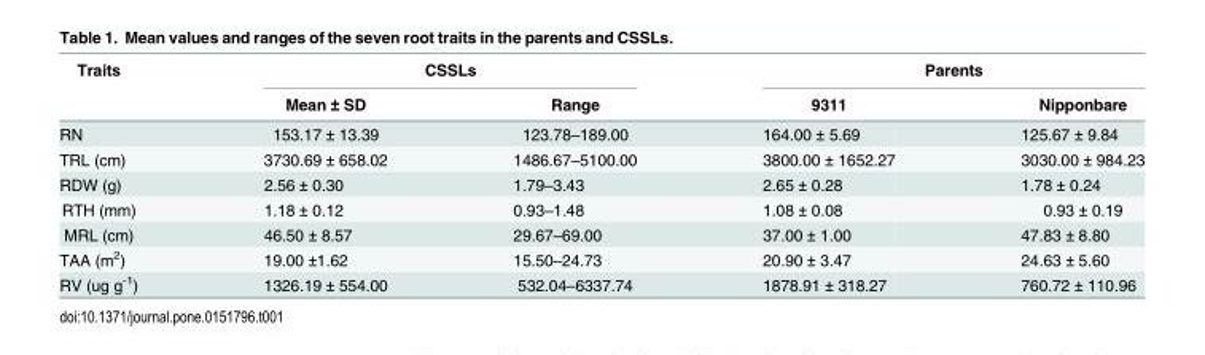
<table><thead><tr><td rowspan="2">Traits</td><td colspan="2">CSSLs</td><td colspan="2">Parents</td></tr><tr><td>Mean ± SD</td><td>Range</td><td>9311</td><td>Nipponbare</td></tr></thead><tbody><tr><td>RN</td><td>153.17 ± 13.39</td><td>123.78–189.00</td><td>164.00 ± 5.69</td><td>125.67 ± 9.84</td></tr><tr><td>TRL (cm)</td><td>3730.69 ± 658.02</td><td>1486.67–5100.00</td><td>3800.00 ± 1652.27</td><td>3030.00 ± 984.23</td></tr><tr><td>RDW (g)</td><td>2.56 ± 0.30</td><td>1.79–3.43</td><td>2.65 ± 0.28</td><td>1.78 ± 0.24</td></tr><tr><td>RTH (mm)</td><td>1.18 ± 0.12</td><td>0.93–1.48</td><td>1.08 ± 0.08</td><td>0.93 ± 0.19</td></tr><tr><td>MRL (cm)</td><td>46.50 ± 8.57</td><td>29.67–69.00</td><td>37.00 ± 1.00</td><td>47.83 ± 8.80</td></tr><tr><td>TAA (m<sup>2</sup>)</td><td>19.00 ±1.62</td><td>15.50–24.73</td><td>20.90 ± 3.47</td><td>24.63 ± 5.60</td></tr><tr><td>RV (ug g<sup>-1</sup>)</td><td>1326.19 ± 554.00</td><td>532.04–6337.74</td><td>1878.91 ± 318.27</td><td>760.72 ± 110.96</td></tr></tbody></table>